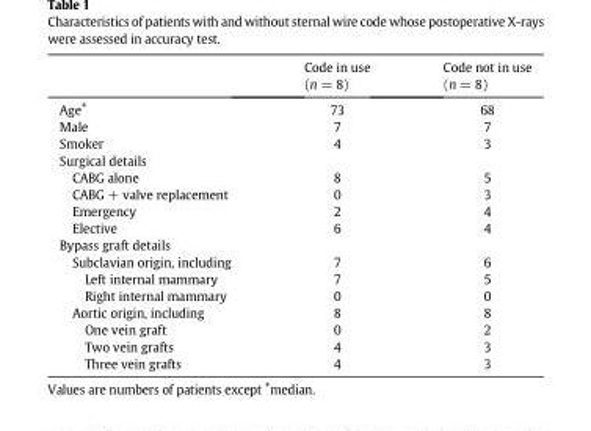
<table><thead><tr><td></td><td>Code in use (n = 8)</td><td>Code not in use (n = 8)</td></tr></thead><tbody><tr><td>Age<sup>⁎</sup></td><td>73</td><td>68</td></tr><tr><td>Male</td><td>7</td><td>7</td></tr><tr><td>Smoker</td><td>4</td><td>3</td></tr><tr><td colspan="3">Surgical details</td></tr><tr><td>CABG alone</td><td>8</td><td>5</td></tr><tr><td>CABG + valve replacement</td><td>0</td><td>3</td></tr><tr><td>Emergency</td><td>2</td><td>4</td></tr><tr><td>Elective</td><td>6</td><td>4</td></tr><tr><td colspan="3">Bypass graft details</td></tr><tr><td>Subclavian origin, including</td><td>7</td><td>6</td></tr><tr><td>Left internal mammary</td><td>7</td><td>5</td></tr><tr><td>Right internal mammary</td><td>0</td><td>0</td></tr><tr><td>Aortic origin, including</td><td>8</td><td>8</td></tr><tr><td>One vein graft</td><td>0</td><td>2</td></tr><tr><td>Two vein grafts</td><td>4</td><td>3</td></tr><tr><td>Three vein grafts</td><td>4</td><td>3</td></tr></tbody></table>